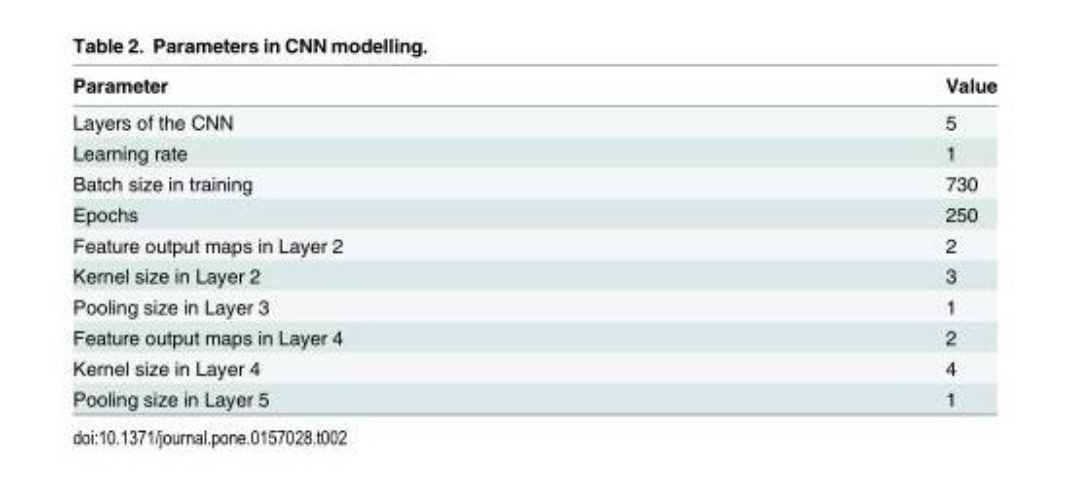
<table><thead><tr><td>Parameter</td><td>Value</td></tr></thead><tbody><tr><td>Layers of the CNN</td><td>5</td></tr><tr><td>Learning rate</td><td>1</td></tr><tr><td>Batch size in training</td><td>730</td></tr><tr><td>Epochs</td><td>250</td></tr><tr><td>Feature output maps in Layer 2</td><td>2</td></tr><tr><td>Kernel size in Layer 2</td><td>3</td></tr><tr><td>Pooling size in Layer 3</td><td>1</td></tr><tr><td>Feature output maps in Layer 4</td><td>2</td></tr><tr><td>Kernel size in Layer 4</td><td>4</td></tr><tr><td>Pooling size in Layer 5</td><td>1</td></tr></tbody></table>